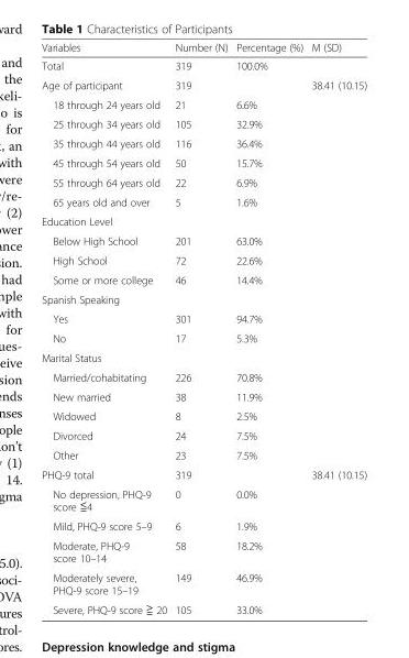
<table><thead><tr><td>Variables</td><td>Number (N)</td><td>Percentage (%)</td><td>M (SD)</td></tr></thead><tbody><tr><td>Total</td><td>319</td><td>100.0%</td><td></td></tr><tr><td>Age of participant</td><td>319</td><td></td><td>38.41 (10.15)</td></tr><tr><td>18 through 24 years old</td><td>21</td><td>6.6%</td><td></td></tr><tr><td>25 through 34 years old</td><td>105</td><td>32.9%</td><td></td></tr><tr><td>35 through 44 years old</td><td>116</td><td>36.4%</td><td></td></tr><tr><td>45 through 54 years old</td><td>50</td><td>15.7%</td><td></td></tr><tr><td>55 through 64 years old</td><td>22</td><td>6.9%</td><td></td></tr><tr><td>65 years old and over</td><td>5</td><td>1.6%</td><td></td></tr><tr><td colspan="4">Education Level</td></tr><tr><td>Below High School</td><td>201</td><td>63.0%</td><td></td></tr><tr><td>High School</td><td>72</td><td>22.6%</td><td></td></tr><tr><td>Some or more college</td><td>46</td><td>14.4%</td><td></td></tr><tr><td colspan="4">Spanish Speaking</td></tr><tr><td>Yes</td><td>301</td><td>94.7%</td><td></td></tr><tr><td>No</td><td>17</td><td>5.3%</td><td></td></tr><tr><td colspan="4">Marital Status</td></tr><tr><td>Married/cohabitating</td><td>226</td><td>70.8%</td><td></td></tr><tr><td>New married</td><td>38</td><td>11.9%</td><td></td></tr><tr><td>Widowed</td><td>8</td><td>2.5%</td><td></td></tr><tr><td>Divorced</td><td>24</td><td>7.5%</td><td></td></tr><tr><td>Other</td><td>23</td><td>7.5%</td><td></td></tr><tr><td>PHQ-9 total</td><td>319</td><td></td><td>38.41 (10.15)</td></tr><tr><td>No depression, PHQ-9 score ≦4</td><td>0</td><td>0.0%</td><td></td></tr><tr><td>Mild, PHQ-9 score 5–9</td><td>6</td><td>1.9%</td><td></td></tr><tr><td>Moderate, PHQ-9 score 10–14</td><td>58</td><td>18.2%</td><td></td></tr><tr><td>Moderately severe, PHQ-9 score 15–19</td><td>149</td><td>46.9%</td><td></td></tr><tr><td>Severe, PHQ-9 score ≧ 20</td><td>105</td><td>33.0%</td><td></td></tr></tbody></table>